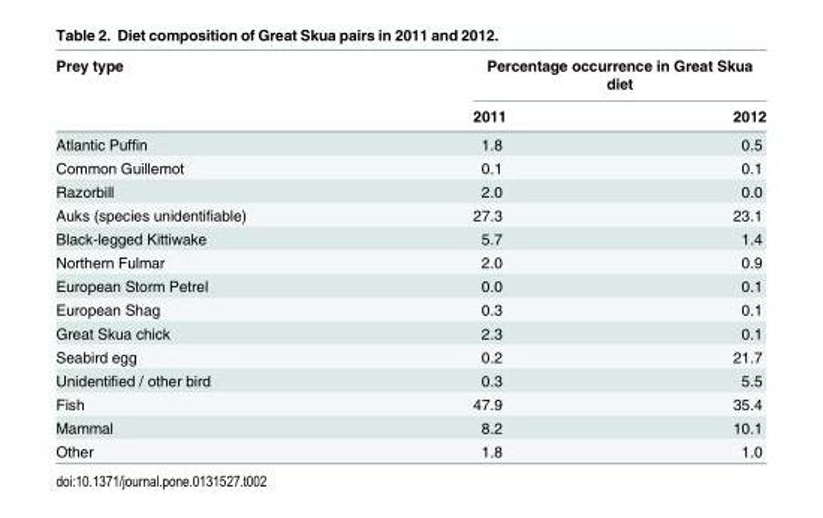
<table><thead><tr><td rowspan="2">Prey type</td><td colspan="2">Percentage occurrence in Great Skua diet</td></tr><tr><td>2011</td><td>2012</td></tr></thead><tbody><tr><td>Atlantic Puffin</td><td>1.8</td><td>0.5</td></tr><tr><td>Common Guillemot</td><td>0.1</td><td>0.1</td></tr><tr><td>Razorbill</td><td>2.0</td><td>0.0</td></tr><tr><td>Auks (species unidentifiable)</td><td>27.3</td><td>23.1</td></tr><tr><td>Black-legged Kittiwake</td><td>5.7</td><td>1.4</td></tr><tr><td>Northern Fulmar</td><td>2.0</td><td>0.9</td></tr><tr><td>European Storm Petrel</td><td>0.0</td><td>0.1</td></tr><tr><td>European Shag</td><td>0.3</td><td>0.1</td></tr><tr><td>Great Skua chick</td><td>2.3</td><td>0.1</td></tr><tr><td>Seabird egg</td><td>0.2</td><td>21.7</td></tr><tr><td>Unidentified / other bird</td><td>0.3</td><td>5.5</td></tr><tr><td>Fish</td><td>47.9</td><td>35.4</td></tr><tr><td>Mammal</td><td>8.2</td><td>10.1</td></tr><tr><td>Other</td><td>1.8</td><td>1.0</td></tr></tbody></table>